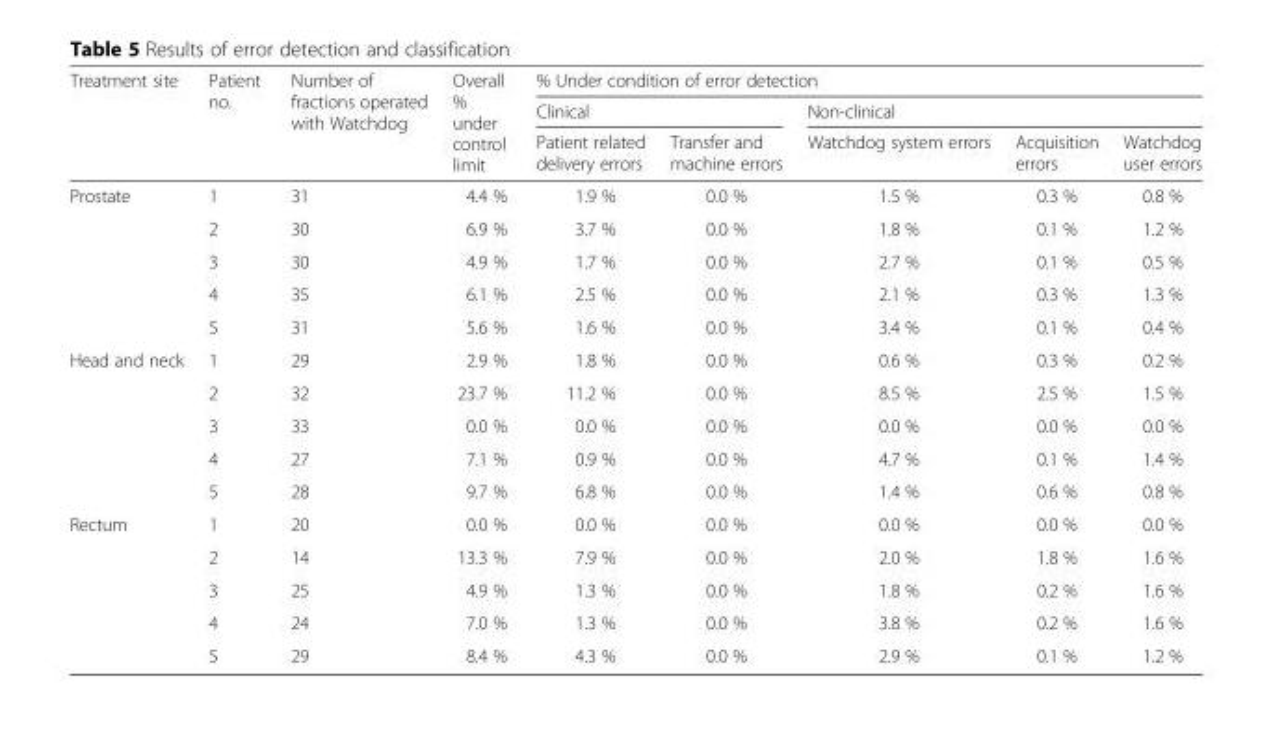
<table><thead><tr><td rowspan="3">Treatment site</td><td rowspan="3">Patient no.</td><td rowspan="3">Number of fractions operated with Watchdog</td><td rowspan="3">Overall % under control limit</td><td colspan="5">% Under condition of error detection</td></tr><tr><td colspan="2">Clinical</td><td colspan="3">Non-clinical</td></tr><tr><td>Patient related delivery errors</td><td>Transfer and machine errors</td><td>Watchdog system errors</td><td>Acquisition errors</td><td>Watchdog user errors</td></tr></thead><tbody><tr><td rowspan="5">Prostate</td><td>1</td><td>31</td><td>4.4 %</td><td>1.9 %</td><td>0.0 %</td><td>1.5 %</td><td>0.3 %</td><td>0.8 %</td></tr><tr><td>2</td><td>30</td><td>6.9 %</td><td>3.7 %</td><td>0.0 %</td><td>1.8 %</td><td>0.1 %</td><td>1.2 %</td></tr><tr><td>3</td><td>30</td><td>4.9 %</td><td>1.7 %</td><td>0.0 %</td><td>2.7 %</td><td>0.1 %</td><td>0.5 %</td></tr><tr><td>4</td><td>35</td><td>6.1 %</td><td>2.5 %</td><td>0.0 %</td><td>2.1 %</td><td>0.3 %</td><td>1.3 %</td></tr><tr><td>5</td><td>31</td><td>5.6 %</td><td>1.6 %</td><td>0.0 %</td><td>3.4 %</td><td>0.1 %</td><td>0.4 %</td></tr><tr><td rowspan="5">Head and neck</td><td>1</td><td>29</td><td>2.9 %</td><td>1.8 %</td><td>0.0 %</td><td>0.6 %</td><td>0.3 %</td><td>0.2 %</td></tr><tr><td>2</td><td>32</td><td>23.7 %</td><td>11.2 %</td><td>0.0 %</td><td>8.5 %</td><td>2.5 %</td><td>1.5 %</td></tr><tr><td>3</td><td>33</td><td>0.0 %</td><td>0.0 %</td><td>0.0 %</td><td>0.0 %</td><td>0.0 %</td><td>0.0 %</td></tr><tr><td>4</td><td>27</td><td>7.1 %</td><td>0.9 %</td><td>0.0 %</td><td>4.7 %</td><td>0.1 %</td><td>1.4 %</td></tr><tr><td>5</td><td>28</td><td>9.7 %</td><td>6.8 %</td><td>0.0 %</td><td>1.4 %</td><td>0.6 %</td><td>0.8 %</td></tr><tr><td rowspan="5">Rectum</td><td>1</td><td>20</td><td>0.0 %</td><td>0.0 %</td><td>0.0 %</td><td>0.0 %</td><td>0.0 %</td><td>0.0 %</td></tr><tr><td>2</td><td>14</td><td>13.3 %</td><td>7.9 %</td><td>0.0 %</td><td>2.0 %</td><td>1.8 %</td><td>1.6 %</td></tr><tr><td>3</td><td>25</td><td>4.9 %</td><td>1.3 %</td><td>0.0 %</td><td>1.8 %</td><td>0.2 %</td><td>1.6 %</td></tr><tr><td>4</td><td>24</td><td>7.0 %</td><td>1.3 %</td><td>0.0 %</td><td>3.8 %</td><td>0.2 %</td><td>1.6 %</td></tr><tr><td>5</td><td>29</td><td>8.4 %</td><td>4.3 %</td><td>0.0 %</td><td>2.9 %</td><td>0.1 %</td><td>1.2 %</td></tr></tbody></table>